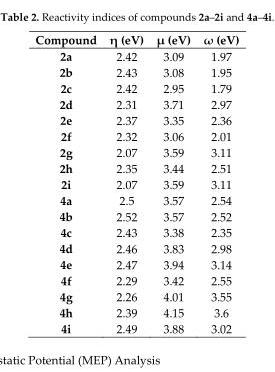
<table><thead><tr><td>Compound</td><td>η (eV)</td><td>µ (eV)</td><td>ω (eV)</td></tr></thead><tbody><tr><td>2a</td><td>2.42</td><td>3.09</td><td>1.97</td></tr><tr><td>2b</td><td>2.43</td><td>3.08</td><td>1.95</td></tr><tr><td>2c</td><td>2.42</td><td>2.95</td><td>1.79</td></tr><tr><td>2d</td><td>2.31</td><td>3.71</td><td>2.97</td></tr><tr><td>2e</td><td>2.37</td><td>3.35</td><td>2.36</td></tr><tr><td>2f</td><td>2.32</td><td>3.06</td><td>2.01</td></tr><tr><td>2g</td><td>2.07</td><td>3.59</td><td>3.11</td></tr><tr><td>2h</td><td>2.35</td><td>3.44</td><td>2.51</td></tr><tr><td>2i</td><td>2.07</td><td>3.59</td><td>3.11</td></tr><tr><td>4a</td><td>2.5</td><td>3.57</td><td>2.54</td></tr><tr><td>4b</td><td>2.52</td><td>3.57</td><td>2.52</td></tr><tr><td>4c</td><td>2.43</td><td>3.38</td><td>2.35</td></tr><tr><td>4d</td><td>2.46</td><td>3.83</td><td>2.98</td></tr><tr><td>4e</td><td>2.47</td><td>3.94</td><td>3.14</td></tr><tr><td>4f</td><td>2.29</td><td>3.42</td><td>2.55</td></tr><tr><td>4g</td><td>2.26</td><td>4.01</td><td>3.55</td></tr><tr><td>4h</td><td>2.39</td><td>4.15</td><td>3.6</td></tr><tr><td>4i</td><td>2.49</td><td>3.88</td><td>3.02</td></tr></tbody></table>